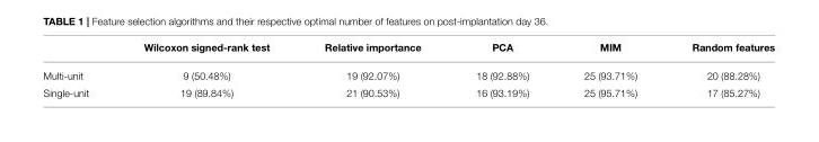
<table><thead><tr><td></td><td>Wilcoxon signed-rank test</td><td>Relative importance</td><td>PCA</td><td>MIM</td><td>Random features</td></tr></thead><tbody><tr><td>Multi-unit</td><td>9 (50.48%)</td><td>19 (92.07%)</td><td>18 (92.88%)</td><td>25 (93.71%)</td><td>20 (88.28%)</td></tr><tr><td>Single-unit</td><td>19 (89.84%)</td><td>21 (90.53%)</td><td>16 (93.19%)</td><td>25 (95.71%)</td><td>17 (85.27%)</td></tr></tbody></table>